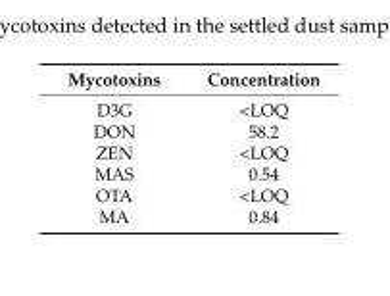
<table><thead><tr><td>Mycotoxins</td><td>Concentration</td></tr></thead><tbody><tr><td>D3G</td><td>&lt;LOQ</td></tr><tr><td>DON</td><td>58.2</td></tr><tr><td>ZEN</td><td>&lt;LOQ</td></tr><tr><td>MAS</td><td>0.54</td></tr><tr><td>OTA</td><td>&lt;LOQ</td></tr><tr><td>MA</td><td>0.84</td></tr></tbody></table>